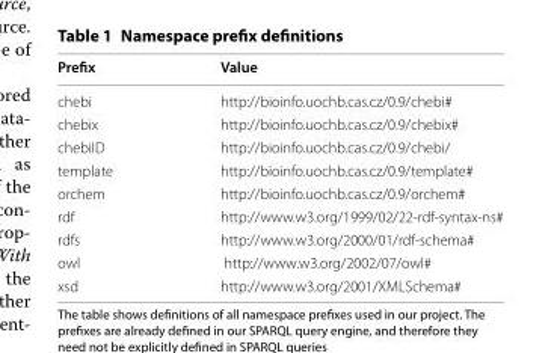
<table><thead><tr><td>Prefix</td><td>Value</td></tr></thead><tbody><tr><td>chebi</td><td>http://bioinfo.uochb.cas.cz/0.9/chebi#</td></tr><tr><td>chebix</td><td>http://bioinfo.uochb.cas.cz/0.9/chebix#</td></tr><tr><td>chebiID</td><td>http://bioinfo.uochb.cas.cz/0.9/chebi/</td></tr><tr><td>template</td><td>http://bioinfo.uochb.cas.cz/0.9/template#</td></tr><tr><td>orchem</td><td>http://bioinfo.uochb.cas.cz/0.9/orchem#</td></tr><tr><td>rdf</td><td>http://www.w3.org/1999/02/22-rdf-syntax-ns#</td></tr><tr><td>rdfs</td><td>http://www.w3.org/2000/01/rdf-schema#</td></tr><tr><td>owl</td><td>http://www.w3.org/2002/07/owl#</td></tr><tr><td>xsd</td><td>http://www.w3.org/2001/XMLSchema#</td></tr></tbody></table>